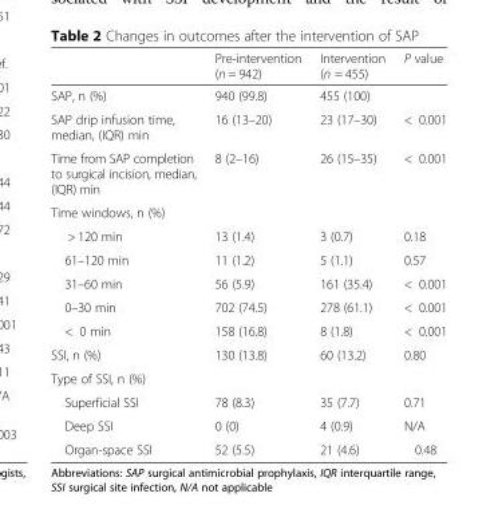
<table><thead><tr><td></td><td>Pre-intervention (n = 942)</td><td>Intervention (n = 455)</td><td>P value</td></tr></thead><tbody><tr><td>SAP, n (%)</td><td>940 (99.8)</td><td>455 (100)</td><td></td></tr><tr><td>SAP drip infusion time, median, (IQR) min</td><td>16 (13–20)</td><td>23 (17–30)</td><td>&lt; 0.001</td></tr><tr><td>Time from SAP completion to surgical incision, median, (IQR) min</td><td>8 (2–16)</td><td>26 (15–35)</td><td>&lt; 0.001</td></tr><tr><td colspan="4">Time windows, n (%)</td></tr><tr><td>&gt; 120 min</td><td>13 (1.4)</td><td>3 (0.7)</td><td>0.18</td></tr><tr><td>61–120 min</td><td>11 (1.2)</td><td>5 (1.1)</td><td>0.57</td></tr><tr><td>31–60 min</td><td>56 (5.9)</td><td>161 (35.4)</td><td>&lt; 0.001</td></tr><tr><td>0–30 min</td><td>702 (74.5)</td><td>278 (61.1)</td><td>&lt; 0.001</td></tr><tr><td>&lt; 0 min</td><td>158 (16.8)</td><td>8 (1.8)</td><td>&lt; 0.001</td></tr><tr><td>SSI, n (%)</td><td>130 (13.8)</td><td>60 (13.2)</td><td>0.80</td></tr><tr><td colspan="4">Type of SSI, n (%)</td></tr><tr><td>Superficial SSI</td><td>78 (8.3)</td><td>35 (7.7)</td><td>0.71</td></tr><tr><td>Deep SSI</td><td>0 (0)</td><td>4 (0.9)</td><td>N/A</td></tr><tr><td>Organ-space SSI</td><td>52 (5.5)</td><td>21 (4.6)</td><td>0.48</td></tr></tbody></table>